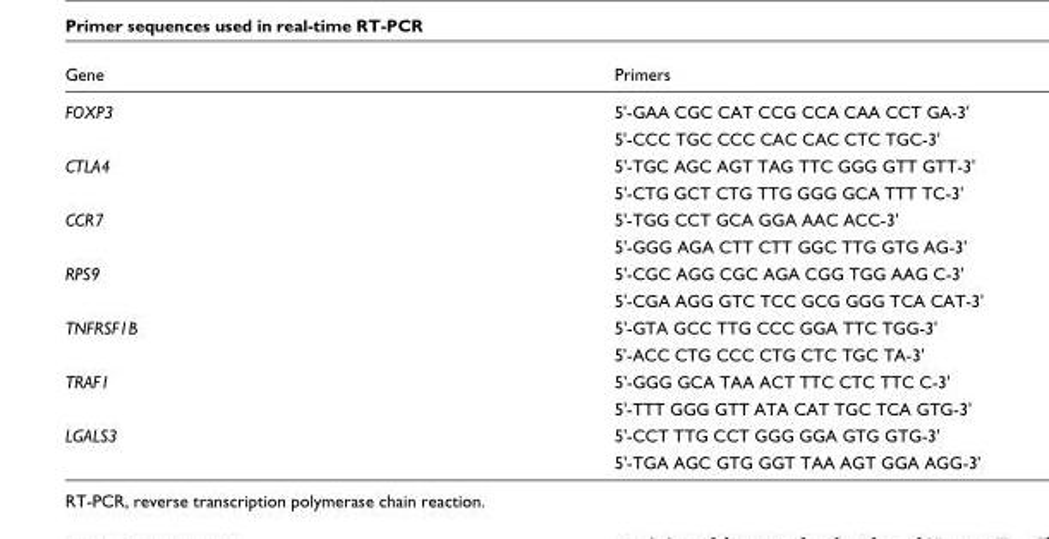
<table><thead><tr><td>Gene</td><td>Primers</td></tr></thead><tbody><tr><td rowspan="2">FOXP3</td><td>5&#x27;-GAA CGC CAT CCG CCA CAA CCT GA-3&#x27;</td></tr><tr><td>5&#x27;-CCC TGC CCC CAC CAC CTC TGC-3&#x27;</td></tr><tr><td rowspan="2">CTLA4</td><td>5&#x27;-TGC AGC AGT TAG TTC GGG GTT GTT-3&#x27;</td></tr><tr><td>5&#x27;-CTG GCT CTG TTG GGG GCA TTT TC-3&#x27;</td></tr><tr><td rowspan="2">CCR7</td><td>5&#x27;-TGG CCT GCA GGA AAC ACC-3&#x27;</td></tr><tr><td>5&#x27;-GGG AGA CTT CTT GGC TTG GTG AG-3&#x27;</td></tr><tr><td rowspan="2">RPS9</td><td>5&#x27;-CGC AGG CGC AGA CGG TGG AAG C-3&#x27;</td></tr><tr><td>5&#x27;-CGA AGG GTC TCC GCG GGG TCA CAT-3&#x27;</td></tr><tr><td rowspan="2">TNFRSF1B</td><td>5&#x27;-GTA GCC TTG CCC GGA TTC TGG-3&#x27;</td></tr><tr><td>5&#x27;-ACC CTG CCC CTG CTC TGC TA-3&#x27;</td></tr><tr><td rowspan="2">TRAF1</td><td>5&#x27;-GGG GCA TAA ACT TTC CTC TTC C-3&#x27;</td></tr><tr><td>5&#x27;-TTT GGG GTT ATA CAT TGC TCA GTG-3&#x27;</td></tr><tr><td rowspan="2">LGALS3</td><td>5&#x27;-CCT TTG CCT GGG GGA GTG GTG-3&#x27;</td></tr><tr><td>5&#x27;-TGA AGC GTG GGT TAA AGT GGA AGG-3&#x27;</td></tr></tbody></table>